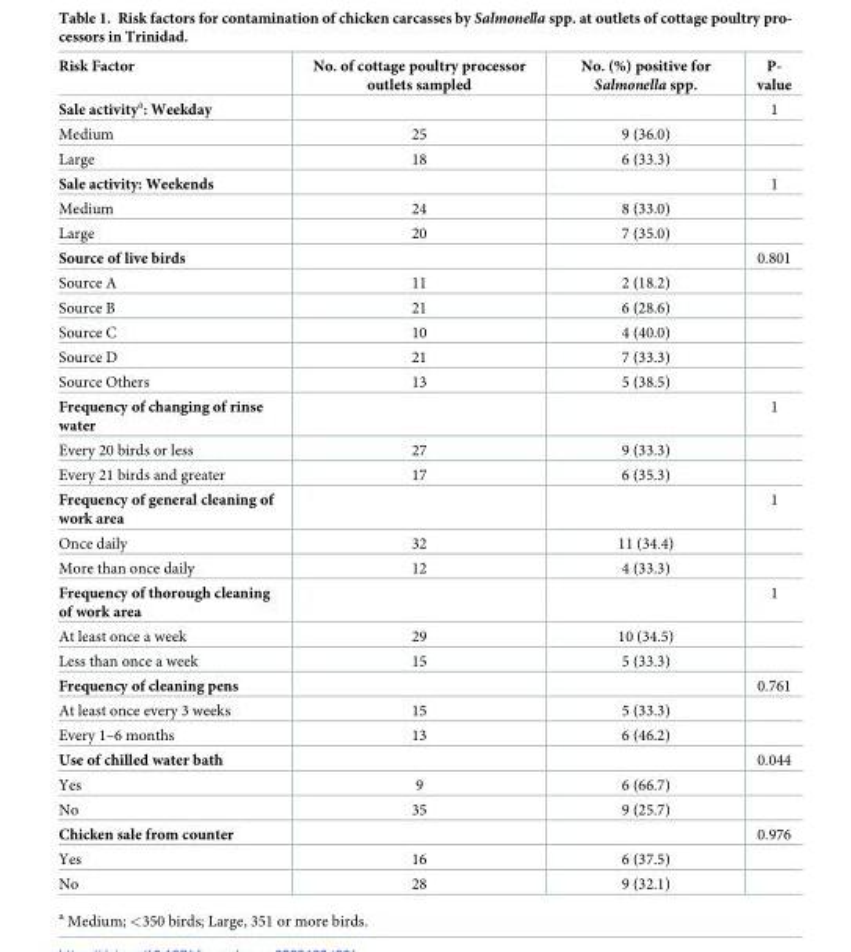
<table><thead><tr><td>Risk Factor</td><td>No. of cottage poultry processor outlets sampled</td><td>No. (%) positive for Salmonella spp.</td><td>P- value</td></tr></thead><tbody><tr><td>Sale activity<sup>a</sup>: Weekday</td><td></td><td></td><td>1</td></tr><tr><td>Medium</td><td>25</td><td>9 (36.0)</td><td></td></tr><tr><td>Large</td><td>18</td><td>6 (33.3)</td><td></td></tr><tr><td>Sale activity: Weekends</td><td></td><td></td><td>1</td></tr><tr><td>Medium</td><td>24</td><td>8 (33.0)</td><td></td></tr><tr><td>Large</td><td>20</td><td>7 (35.0)</td><td></td></tr><tr><td>Source of live birds</td><td></td><td></td><td>0.801</td></tr><tr><td>Source A</td><td>11</td><td>2 (18.2)</td><td></td></tr><tr><td>Source B</td><td>21</td><td>6 (28.6)</td><td></td></tr><tr><td>Source C</td><td>10</td><td>4 (40.0)</td><td></td></tr><tr><td>Source D</td><td>21</td><td>7 (33.3)</td><td></td></tr><tr><td>Source Others</td><td>13</td><td>5 (38.5)</td><td></td></tr><tr><td>Frequency of changing of rinse water</td><td></td><td></td><td>1</td></tr><tr><td>Every 20 birds or less</td><td>27</td><td>9 (33.3)</td><td></td></tr><tr><td>Every 21 birds and greater</td><td>17</td><td>6 (35.3)</td><td></td></tr><tr><td>Frequency of general cleaning of work area</td><td></td><td></td><td>1</td></tr><tr><td>Once daily</td><td>32</td><td>11 (34.4)</td><td></td></tr><tr><td>More than once daily</td><td>12</td><td>4 (33.3)</td><td></td></tr><tr><td>Frequency of thorough cleaning of work area</td><td></td><td></td><td>1</td></tr><tr><td>At least once a week</td><td>29</td><td>10 (34.5)</td><td></td></tr><tr><td>Less than once a week</td><td>15</td><td>5 (33.3)</td><td></td></tr><tr><td>Frequency of cleaning pens</td><td></td><td></td><td>0.761</td></tr><tr><td>At least once every 3 weeks</td><td>15</td><td>5 (33.3)</td><td></td></tr><tr><td>Every 1–6 months</td><td>13</td><td>6 (46.2)</td><td></td></tr><tr><td>Use of chilled water bath</td><td></td><td></td><td>0.044</td></tr><tr><td>Yes</td><td>9</td><td>6 (66.7)</td><td></td></tr><tr><td>No</td><td>35</td><td>9 (25.7)</td><td></td></tr><tr><td>Chicken sale from counter</td><td></td><td></td><td>0.976</td></tr><tr><td>Yes</td><td>16</td><td>6 (37.5)</td><td></td></tr><tr><td>No</td><td>28</td><td>9 (32.1)</td><td></td></tr></tbody></table>